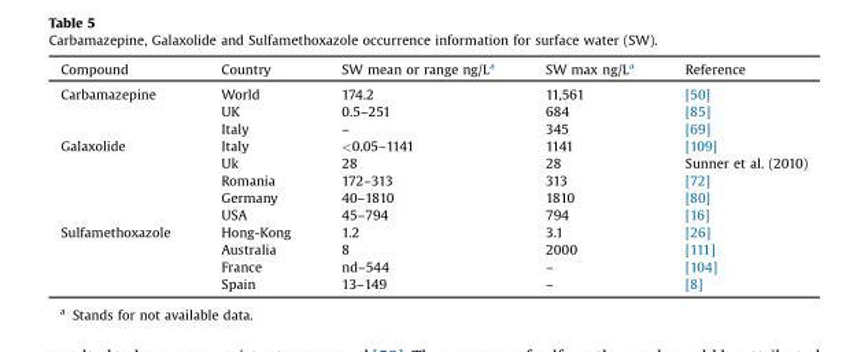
<table><thead><tr><td>Compound</td><td>Country</td><td>SW mean or range ng/L<sup>a</sup></td><td>SW max ng/L<sup>a</sup></td><td>Reference</td></tr></thead><tbody><tr><td rowspan="3">Carbamazepine</td><td>World</td><td>174.2</td><td>11,561</td><td>[50]</td></tr><tr><td>UK</td><td>0.5–251</td><td>684</td><td>[85]</td></tr><tr><td>Italy</td><td>–</td><td>345</td><td>[69]</td></tr><tr><td rowspan="5">Galaxolide</td><td>Italy</td><td>&lt;0.05–1141</td><td>1141</td><td>[109]</td></tr><tr><td>Uk</td><td>28</td><td>28</td><td>Sunner et al. (2010)</td></tr><tr><td>Romania</td><td>172–313</td><td>313</td><td>[72]</td></tr><tr><td>Germany</td><td>40–1810</td><td>1810</td><td>[80]</td></tr><tr><td>USA</td><td>45–794</td><td>794</td><td>[16]</td></tr><tr><td rowspan="4">Sulfamethoxazole</td><td>Hong-Kong</td><td>1.2</td><td>3.1</td><td>[26]</td></tr><tr><td>Australia</td><td>8</td><td>2000</td><td>[111]</td></tr><tr><td>France</td><td>nd–544</td><td>–</td><td>[104]</td></tr><tr><td>Spain</td><td>13–149</td><td>–</td><td>[8]</td></tr></tbody></table>